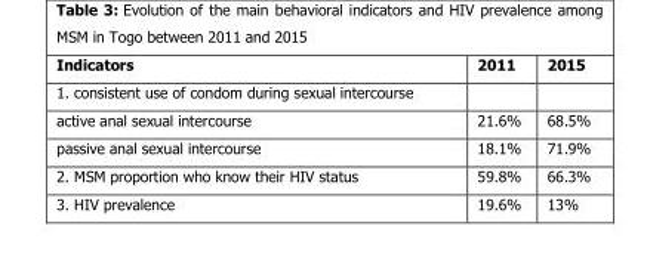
<table><thead><tr><td>Indicators</td><td>2011</td><td>2015</td></tr></thead><tbody><tr><td colspan="3">1. consistent use of condom during sexual intercourse</td></tr><tr><td>active anal sexual intercourse</td><td>21.6%</td><td>68.5%</td></tr><tr><td>passive anal sexual intercourse</td><td>18.1%</td><td>71.9%</td></tr><tr><td>2. MSM proportion who know their HIV status</td><td>59.8%</td><td>66.3%</td></tr><tr><td>3. HIV prevalence</td><td>19.6%</td><td>13%</td></tr></tbody></table>